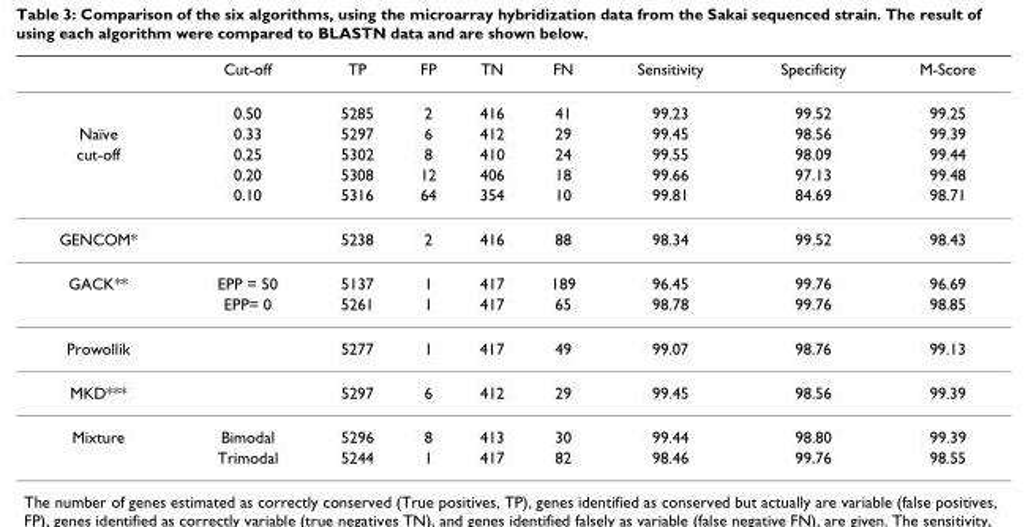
<table><thead><tr><td></td><td>Cut-off</td><td>TP</td><td>FP</td><td>TN</td><td>FN</td><td>Sensitivity</td><td>Specificity</td><td>M-Score</td></tr></thead><tbody><tr><td></td><td>0.50</td><td>5285</td><td>2</td><td>416</td><td>41</td><td>99.23</td><td>99.52</td><td>99.25</td></tr><tr><td>Naïve</td><td>0.33</td><td>5297</td><td>6</td><td>412</td><td>29</td><td>99.45</td><td>98.56</td><td>99.39</td></tr><tr><td rowspan="3">cut-off</td><td>0.25</td><td>5302</td><td>8</td><td>410</td><td>24</td><td>99.55</td><td>98.09</td><td>99.44</td></tr><tr><td>0.20</td><td>5308</td><td>12</td><td>406</td><td>18</td><td>99.66</td><td>97.13</td><td>99.48</td></tr><tr><td>0.10</td><td>5316</td><td>64</td><td>354</td><td>10</td><td>99.81</td><td>84.69</td><td>98.71</td></tr><tr><td>GENCOM*</td><td></td><td>5238</td><td>2</td><td>416</td><td>88</td><td>98.34</td><td>99.52</td><td>98.43</td></tr><tr><td rowspan="2">GACK**</td><td>EPP = 50</td><td>5137</td><td>1</td><td>417</td><td>189</td><td>96.45</td><td>99.76</td><td>96.69</td></tr><tr><td>EPP= 0</td><td>5261</td><td>1</td><td>417</td><td>65</td><td>98.78</td><td>99.76</td><td>98.85</td></tr><tr><td>Prowollik</td><td></td><td>5277</td><td>1</td><td>417</td><td>49</td><td>99.07</td><td>98.76</td><td>99.13</td></tr><tr><td>MKD***</td><td></td><td>5297</td><td>6</td><td>412</td><td>29</td><td>99.45</td><td>98.56</td><td>99.39</td></tr><tr><td rowspan="2">Mixture</td><td>Bimodal</td><td>5296</td><td>8</td><td>413</td><td>30</td><td>99.44</td><td>98.80</td><td>99.39</td></tr><tr><td>Trimodal</td><td>5244</td><td>1</td><td>417</td><td>82</td><td>98.46</td><td>99.76</td><td>98.55</td></tr></tbody></table>